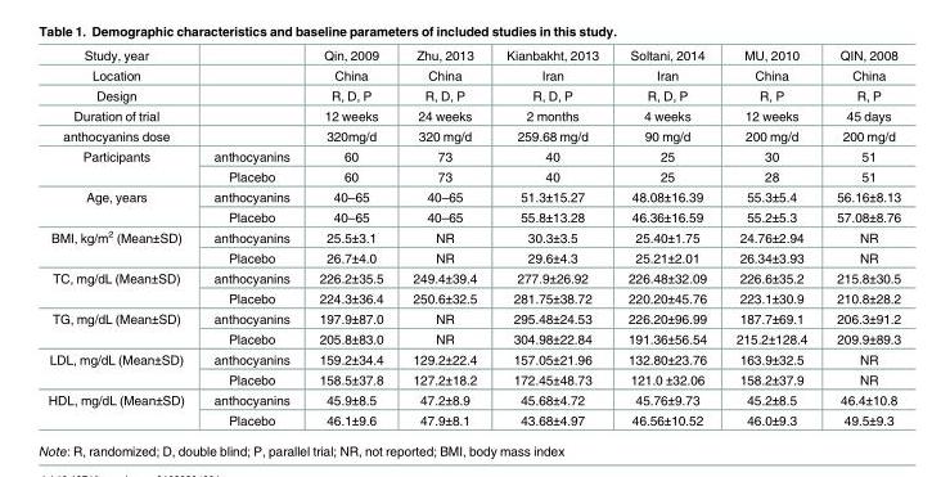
<table><tbody><tr><td>Study, year</td><td></td><td>Qin, 2009</td><td>Zhu, 2013</td><td>Kianbakht, 2013</td><td>Soltani, 2014</td><td>MU, 2010</td><td>QIN, 2008</td></tr><tr><td>Location</td><td></td><td>China</td><td>China</td><td>Iran</td><td>Iran</td><td>China</td><td>China</td></tr><tr><td>Design</td><td></td><td>R, D, P</td><td>R, D, P</td><td>R, D, P</td><td>R, D, P</td><td>R, P</td><td>R, P</td></tr><tr><td>Duration of trial</td><td></td><td>12 weeks</td><td>24 weeks</td><td>2 months</td><td>4 weeks</td><td>12 weeks</td><td>45 days</td></tr><tr><td>anthocyanins dose</td><td></td><td>320mg/d</td><td>320 mg/d</td><td>259.68 mg/d</td><td>90 mg/d</td><td>200 mg/d</td><td>200 mg/d</td></tr><tr><td rowspan="2">Participants</td><td>anthocyanins</td><td>60</td><td>73</td><td>40</td><td>25</td><td>30</td><td>51</td></tr><tr><td>Placebo</td><td>60</td><td>73</td><td>40</td><td>25</td><td>28</td><td>51</td></tr><tr><td rowspan="2">Age, years</td><td>anthocyanins</td><td>40–65</td><td>40–65</td><td>51.3±15.27</td><td>48.08±16.39</td><td>55.3±5.4</td><td>56.16±8.13</td></tr><tr><td>Placebo</td><td>40–65</td><td>40–65</td><td>55.8±13.28</td><td>46.36±16.59</td><td>55.2±5.3</td><td>57.08±8.76</td></tr><tr><td rowspan="2">BMI, kg/m<sup>2</sup> (Mean±SD)</td><td>anthocyanins</td><td>25.5±3.1</td><td>NR</td><td>30.3±3.5</td><td>25.40±1.75</td><td>24.76±2.94</td><td>NR</td></tr><tr><td>Placebo</td><td>26.7±4.0</td><td>NR</td><td>29.6±4.3</td><td>25.21±2.01</td><td>26.34±3.93</td><td>NR</td></tr><tr><td rowspan="2">TC, mg/dL (Mean±SD)</td><td>anthocyanins</td><td>226.2±35.5</td><td>249.4±39.4</td><td>277.9±26.92</td><td>226.48±32.09</td><td>226.6±35.2</td><td>215.8±30.5</td></tr><tr><td>Placebo</td><td>224.3±36.4</td><td>250.6±32.5</td><td>281.75±38.72</td><td>220.20±45.76</td><td>223.1±30.9</td><td>210.8±28.2</td></tr><tr><td rowspan="2">TG, mg/dL (Mean±SD)</td><td>anthocyanins</td><td>197.9±87.0</td><td>NR</td><td>295.48±24.53</td><td>226.20±96.99</td><td>187.7±69.1</td><td>206.3±91.2</td></tr><tr><td>Placebo</td><td>205.8±83.0</td><td>NR</td><td>304.98±22.84</td><td>191.36±56.54</td><td>215.2±128.4</td><td>209.9±89.3</td></tr><tr><td rowspan="2">LDL, mg/dL (Mean±SD)</td><td>anthocyanins</td><td>159.2±34.4</td><td>129.2±22.4</td><td>157.05±21.96</td><td>132.80±23.76</td><td>163.9±32.5</td><td>NR</td></tr><tr><td>Placebo</td><td>158.5±37.8</td><td>127.2±18.2</td><td>172.45±48.73</td><td>121.0 ±32.06</td><td>158.2±37.9</td><td>NR</td></tr><tr><td rowspan="2">HDL, mg/dL (Mean±SD)</td><td>anthocyanins</td><td>45.9±8.5</td><td>47.2±8.9</td><td>45.68±4.72</td><td>45.76±9.73</td><td>45.2±8.5</td><td>46.4±10.8</td></tr><tr><td>Placebo</td><td>46.1±9.6</td><td>47.9±8.1</td><td>43.68±4.97</td><td>46.56±10.52</td><td>46.0±9.3</td><td>49.5±9.3</td></tr></tbody></table>